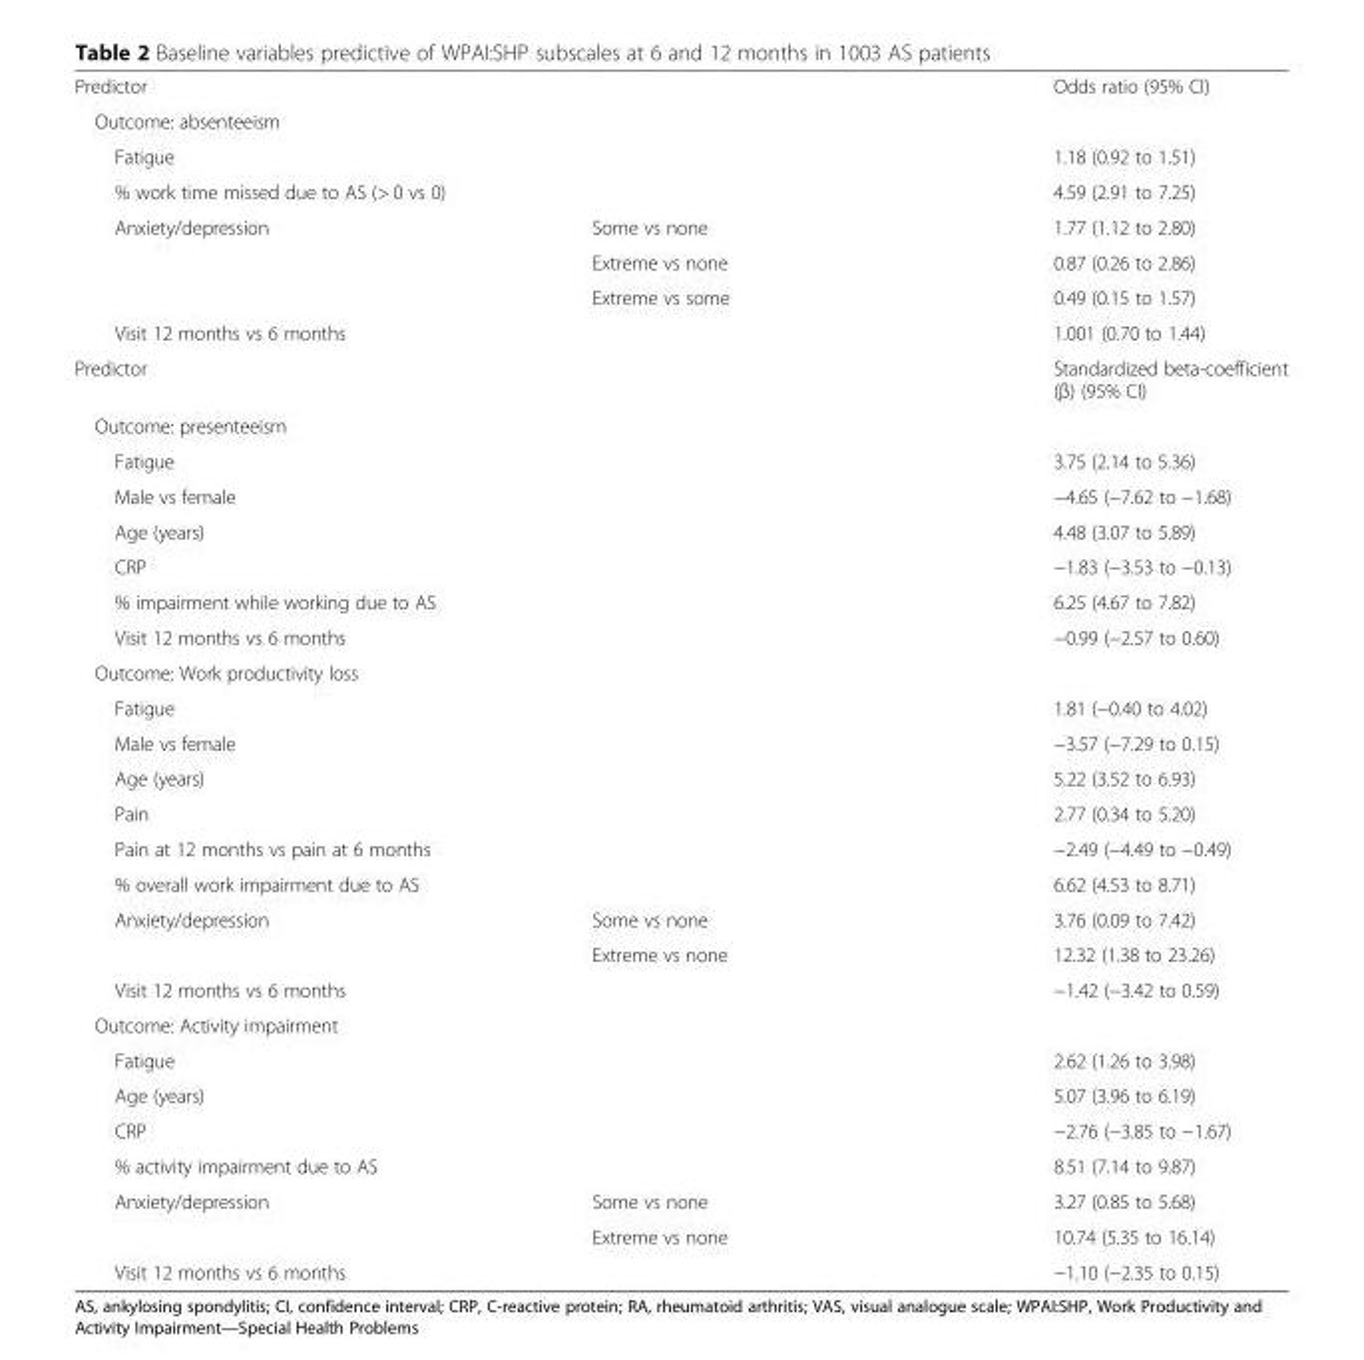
<table><tbody><tr><td colspan="2">Predictor</td><td>Odds ratio (95% CI)</td></tr><tr><td colspan="3">Outcome: absenteeism</td></tr><tr><td colspan="2">Fatigue</td><td>1.18 (0.92 to 1.51)</td></tr><tr><td colspan="2">% work time missed due to AS (&gt; 0 vs 0)</td><td>4.59 (2.91 to 7.25)</td></tr><tr><td rowspan="3">Anxiety/depression</td><td>Some vs none</td><td>1.77 (1.12 to 2.80)</td></tr><tr><td>Extreme vs none</td><td>0.87 (0.26 to 2.86)</td></tr><tr><td>Extreme vs some</td><td>0.49 (0.15 to 1.57)</td></tr><tr><td colspan="2">Visit 12 months vs 6 months</td><td>1.001 (0.70 to 1.44)</td></tr><tr><td colspan="2">Predictor</td><td>Standardized beta-coefficient (β) (95% CI)</td></tr><tr><td colspan="3">Outcome: presenteeism</td></tr><tr><td colspan="2">Fatigue</td><td>3.75 (2.14 to 5.36)</td></tr><tr><td colspan="2">Male vs female</td><td>−4.65 (−7.62 to −1.68)</td></tr><tr><td colspan="2">Age (years)</td><td>4.48 (3.07 to 5.89)</td></tr><tr><td colspan="2">CRP</td><td>−1.83 (−3.53 to −0.13)</td></tr><tr><td colspan="2">% impairment while working due to AS</td><td>6.25 (4.67 to 7.82)</td></tr><tr><td colspan="2">Visit 12 months vs 6 months</td><td>−0.99 (−2.57 to 0.60)</td></tr><tr><td colspan="3">Outcome: Work productivity loss</td></tr><tr><td colspan="2">Fatigue</td><td>1.81 (−0.40 to 4.02)</td></tr><tr><td colspan="2">Male vs female</td><td>−3.57 (−7.29 to 0.15)</td></tr><tr><td colspan="2">Age (years)</td><td>5.22 (3.52 to 6.93)</td></tr><tr><td colspan="2">Pain</td><td>2.77 (0.34 to 5.20)</td></tr><tr><td colspan="2">Pain at 12 months vs pain at 6 months</td><td>−2.49 (−4.49 to −0.49)</td></tr><tr><td colspan="2">% overall work impairment due to AS</td><td>6.62 (4.53 to 8.71)</td></tr><tr><td rowspan="2">Anxiety/depression</td><td>Some vs none</td><td>3.76 (0.09 to 7.42)</td></tr><tr><td>Extreme vs none</td><td>12.32 (1.38 to 23.26)</td></tr><tr><td colspan="2">Visit 12 months vs 6 months</td><td>−1.42 (−3.42 to 0.59)</td></tr><tr><td colspan="3">Outcome: Activity impairment</td></tr><tr><td colspan="2">Fatigue</td><td>2.62 (1.26 to 3.98)</td></tr><tr><td colspan="2">Age (years)</td><td>5.07 (3.96 to 6.19)</td></tr><tr><td colspan="2">CRP</td><td>−2.76 (−3.85 to −1.67)</td></tr><tr><td colspan="2">% activity impairment due to AS</td><td>8.51 (7.14 to 9.87)</td></tr><tr><td rowspan="2">Anxiety/depression</td><td>Some vs none</td><td>3.27 (0.85 to 5.68)</td></tr><tr><td>Extreme vs none</td><td>10.74 (5.35 to 16.14)</td></tr><tr><td colspan="2">Visit 12 months vs 6 months</td><td>−1.10 (−2.35 to 0.15)</td></tr></tbody></table>